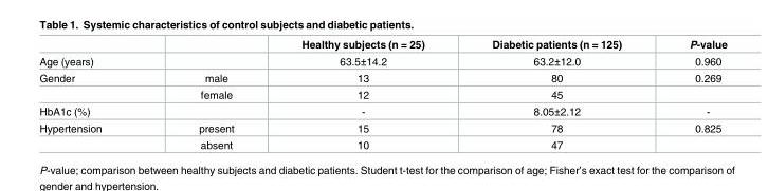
<table><thead><tr><td></td><td></td><td>Healthy subjects (n = 25)</td><td>Diabetic patients (n = 125)</td><td>P-value</td></tr></thead><tbody><tr><td>Age (years)</td><td></td><td>63.5±14.2</td><td>63.2±12.0</td><td>0.960</td></tr><tr><td rowspan="2">Gender</td><td>male</td><td>13</td><td>80</td><td>0.269</td></tr><tr><td>female</td><td>12</td><td>45</td><td></td></tr><tr><td>HbA1c (%)</td><td></td><td>-</td><td>8.05±2.12</td><td>-</td></tr><tr><td rowspan="2">Hypertension</td><td>present</td><td>15</td><td>78</td><td>0.825</td></tr><tr><td>absent</td><td>10</td><td>47</td><td></td></tr></tbody></table>